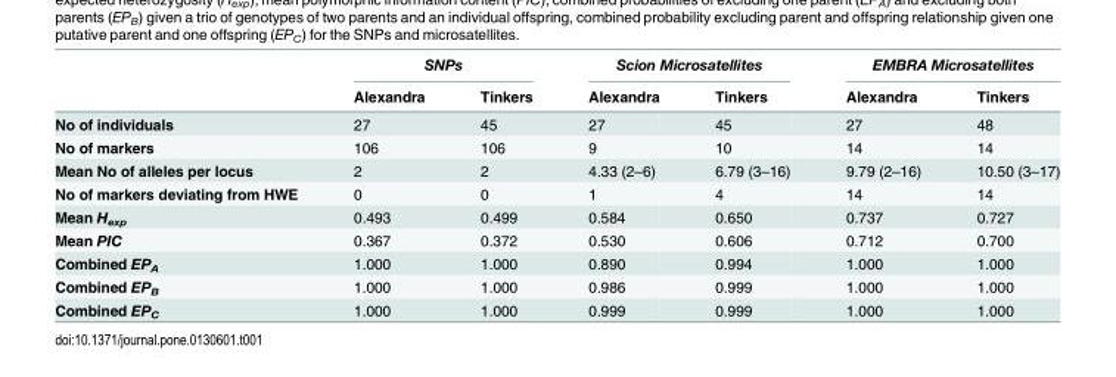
<table><thead><tr><td rowspan="2"></td><td colspan="2">SNPs</td><td colspan="2">Scion Microsatellites</td><td colspan="2">EMBRA Microsatellites</td></tr><tr><td>Alexandra</td><td>Tinkers</td><td>Alexandra</td><td>Tinkers</td><td>Alexandra</td><td>Tinkers</td></tr></thead><tbody><tr><td>No of individuals</td><td>27</td><td>45</td><td>27</td><td>45</td><td>27</td><td>48</td></tr><tr><td>No of markers</td><td>106</td><td>106</td><td>9</td><td>10</td><td>14</td><td>14</td></tr><tr><td>Mean No of alleles per locus</td><td>2</td><td>2</td><td>4.33 (2–6)</td><td>6.79 (3–16)</td><td>9.79 (2–16)</td><td>10.50 (3–17)</td></tr><tr><td>No of markers deviating from HWE</td><td>0</td><td>0</td><td>1</td><td>4</td><td>14</td><td>14</td></tr><tr><td>Mean H<sub>exp</sub></td><td>0.493</td><td>0.499</td><td>0.584</td><td>0.650</td><td>0.737</td><td>0.727</td></tr><tr><td>Mean PIC</td><td>0.367</td><td>0.372</td><td>0.530</td><td>0.606</td><td>0.712</td><td>0.700</td></tr><tr><td>Combined EP<sub>A</sub></td><td>1.000</td><td>1.000</td><td>0.890</td><td>0.994</td><td>1.000</td><td>1.000</td></tr><tr><td>Combined EP<sub>B</sub></td><td>1.000</td><td>1.000</td><td>0.986</td><td>0.999</td><td>1.000</td><td>1.000</td></tr><tr><td>Combined EP<sub>C</sub></td><td>1.000</td><td>1.000</td><td>0.999</td><td>0.999</td><td>1.000</td><td>1.000</td></tr></tbody></table>